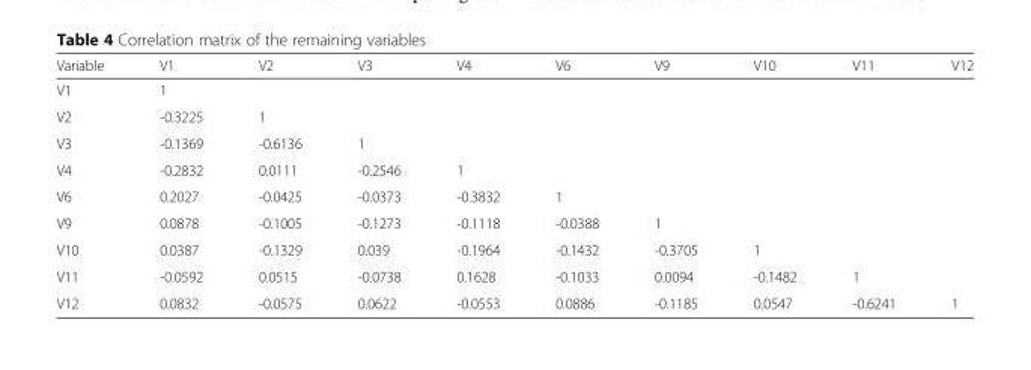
<table><thead><tr><td>Variable</td><td>V1</td><td>V2</td><td>V3</td><td>V4</td><td>V6</td><td>V9</td><td>V10</td><td>V11</td><td>V12</td></tr></thead><tbody><tr><td>V1</td><td>1</td><td></td><td></td><td></td><td></td><td></td><td></td><td></td><td></td></tr><tr><td>V2</td><td>-0.3225</td><td>1</td><td></td><td></td><td></td><td></td><td></td><td></td><td></td></tr><tr><td>V3</td><td>-0.1369</td><td>-0.6136</td><td>1</td><td></td><td></td><td></td><td></td><td></td><td></td></tr><tr><td>V4</td><td>-0.2832</td><td>0.0111</td><td>-0.2546</td><td>1</td><td></td><td></td><td></td><td></td><td></td></tr><tr><td>V6</td><td>0.2027</td><td>-0.0425</td><td>-0.0373</td><td>-0.3832</td><td>1</td><td></td><td></td><td></td><td></td></tr><tr><td>V9</td><td>0.0878</td><td>-0.1005</td><td>-0.1273</td><td>-0.1118</td><td>-0.0388</td><td>1</td><td></td><td></td><td></td></tr><tr><td>V10</td><td>0.0387</td><td>-0.1329</td><td>0.039</td><td>-0.1964</td><td>-0.1432</td><td>-0.3705</td><td>1</td><td></td><td></td></tr><tr><td>V11</td><td>-0.0592</td><td>0.0515</td><td>-0.0738</td><td>0.1628</td><td>-0.1033</td><td>0.0094</td><td>-0.1482</td><td>1</td><td></td></tr><tr><td>V12</td><td>0.0832</td><td>-0.0575</td><td>0.0622</td><td>-0.0553</td><td>0.0886</td><td>-0.1185</td><td>0.0547</td><td>-0.6241</td><td>1</td></tr></tbody></table>